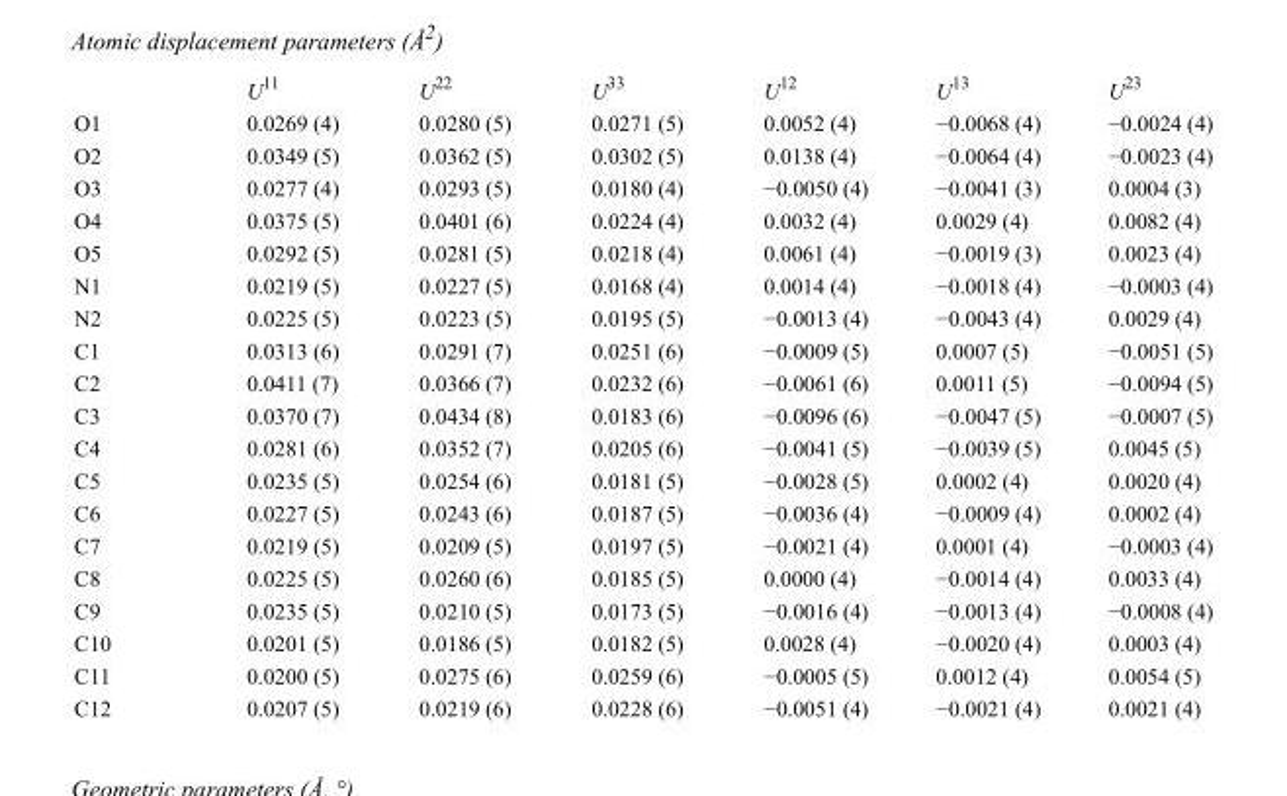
<table><thead><tr><td></td><td>U<sup>11</sup></td><td>U<sup>22</sup></td><td>U<sup>33</sup></td><td>U<sup>12</sup></td><td>U<sup>13</sup></td><td>U<sup>23</sup></td></tr></thead><tbody><tr><td>O1</td><td>0.0269 (4)</td><td>0.0280 (5)</td><td>0.0271 (5)</td><td>0.0052 (4)</td><td>−0.0068 (4)</td><td>−0.0024 (4)</td></tr><tr><td>O2</td><td>0.0349 (5)</td><td>0.0362 (5)</td><td>0.0302 (5)</td><td>0.0138 (4)</td><td>−0.0064 (4)</td><td>−0.0023 (4)</td></tr><tr><td>O3</td><td>0.0277 (4)</td><td>0.0293 (5)</td><td>0.0180 (4)</td><td>−0.0050 (4)</td><td>−0.0041 (3)</td><td>0.0004 (3)</td></tr><tr><td>O4</td><td>0.0375 (5)</td><td>0.0401 (6)</td><td>0.0224 (4)</td><td>0.0032 (4)</td><td>0.0029 (4)</td><td>0.0082 (4)</td></tr><tr><td>O5</td><td>0.0292 (5)</td><td>0.0281 (5)</td><td>0.0218 (4)</td><td>0.0061 (4)</td><td>−0.0019 (3)</td><td>0.0023 (4)</td></tr><tr><td>N1</td><td>0.0219 (5)</td><td>0.0227 (5)</td><td>0.0168 (4)</td><td>0.0014 (4)</td><td>−0.0018 (4)</td><td>−0.0003 (4)</td></tr><tr><td>N2</td><td>0.0225 (5)</td><td>0.0223 (5)</td><td>0.0195 (5)</td><td>−0.0013 (4)</td><td>−0.0043 (4)</td><td>0.0029 (4)</td></tr><tr><td>C1</td><td>0.0313 (6)</td><td>0.0291 (7)</td><td>0.0251 (6)</td><td>−0.0009 (5)</td><td>0.0007 (5)</td><td>−0.0051 (5)</td></tr><tr><td>C2</td><td>0.0411 (7)</td><td>0.0366 (7)</td><td>0.0232 (6)</td><td>−0.0061 (6)</td><td>0.0011 (5)</td><td>−0.0094 (5)</td></tr><tr><td>C3</td><td>0.0370 (7)</td><td>0.0434 (8)</td><td>0.0183 (6)</td><td>−0.0096 (6)</td><td>−0.0047 (5)</td><td>−0.0007 (5)</td></tr><tr><td>C4</td><td>0.0281 (6)</td><td>0.0352 (7)</td><td>0.0205 (6)</td><td>−0.0041 (5)</td><td>−0.0039 (5)</td><td>0.0045 (5)</td></tr><tr><td>C5</td><td>0.0235 (5)</td><td>0.0254 (6)</td><td>0.0181 (5)</td><td>−0.0028 (5)</td><td>0.0002 (4)</td><td>0.0020 (4)</td></tr><tr><td>C6</td><td>0.0227 (5)</td><td>0.0243 (6)</td><td>0.0187 (5)</td><td>−0.0036 (4)</td><td>−0.0009 (4)</td><td>0.0002 (4)</td></tr><tr><td>C7</td><td>0.0219 (5)</td><td>0.0209 (5)</td><td>0.0197 (5)</td><td>−0.0021 (4)</td><td>0.0001 (4)</td><td>−0.0003 (4)</td></tr><tr><td>C8</td><td>0.0225 (5)</td><td>0.0260 (6)</td><td>0.0185 (5)</td><td>0.0000 (4)</td><td>−0.0014 (4)</td><td>0.0033 (4)</td></tr><tr><td>C9</td><td>0.0235 (5)</td><td>0.0210 (5)</td><td>0.0173 (5)</td><td>−0.0016 (4)</td><td>−0.0013 (4)</td><td>−0.0008 (4)</td></tr><tr><td>C10</td><td>0.0201 (5)</td><td>0.0186 (5)</td><td>0.0182 (5)</td><td>0.0028 (4)</td><td>−0.0020 (4)</td><td>0.0003 (4)</td></tr><tr><td>C11</td><td>0.0200 (5)</td><td>0.0275 (6)</td><td>0.0259 (6)</td><td>−0.0005 (5)</td><td>0.0012 (4)</td><td>0.0054 (5)</td></tr><tr><td>C12</td><td>0.0207 (5)</td><td>0.0219 (6)</td><td>0.0228 (6)</td><td>−0.0051 (4)</td><td>−0.0021 (4)</td><td>0.0021 (4)</td></tr></tbody></table>